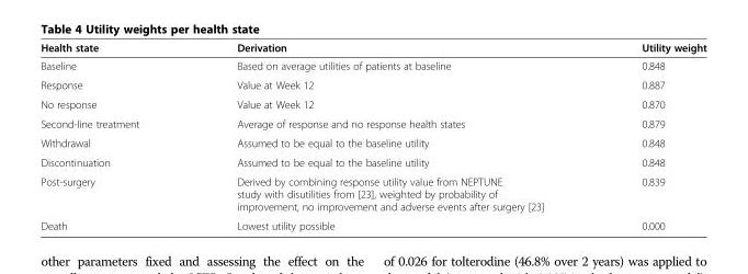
<table><thead><tr><td>Health state</td><td>Derivation</td><td>Utility weight</td></tr></thead><tbody><tr><td>Baseline</td><td>Based on average utilities of patients at baseline</td><td>0.848</td></tr><tr><td>Response</td><td>Value at Week 12</td><td>0.887</td></tr><tr><td>No response</td><td>Value at Week 12</td><td>0.870</td></tr><tr><td>Second-line treatment</td><td>Average of response and no response health states</td><td>0.879</td></tr><tr><td>Withdrawal</td><td>Assumed to be equal to the baseline utility</td><td>0.848</td></tr><tr><td>Discontinuation</td><td>Assumed to be equal to the baseline utility</td><td>0.848</td></tr><tr><td>Post-surgery</td><td>Derived by combining response utility value from NEPTUNE study with disutilities from [23], weighted by probability of improvement, no improvement and adverse events after surgery [23]</td><td>0.839</td></tr><tr><td>Death</td><td>Lowest utility possible</td><td>0.000</td></tr></tbody></table>